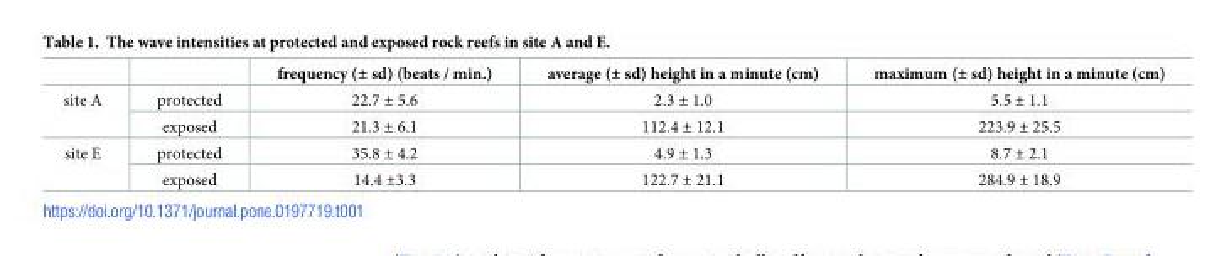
<table><thead><tr><td></td><td></td><td>frequency (± sd) (beats / min.)</td><td>average (± sd) height in a minute (cm)</td><td>maximum (± sd) height in a minute (cm)</td></tr></thead><tbody><tr><td rowspan="2">site A</td><td>protected</td><td>22.7 ± 5.6</td><td>2.3 ± 1.0</td><td>5.5 ± 1.1</td></tr><tr><td>exposed</td><td>21.3 ± 6.1</td><td>112.4 ± 12.1</td><td>223.9 ± 25.5</td></tr><tr><td rowspan="2">site E</td><td>protected</td><td>35.8 ± 4.2</td><td>4.9 ± 1.3</td><td>8.7 ± 2.1</td></tr><tr><td>exposed</td><td>14.4 ±3.3</td><td>122.7 ± 21.1</td><td>284.9 ± 18.9</td></tr></tbody></table>